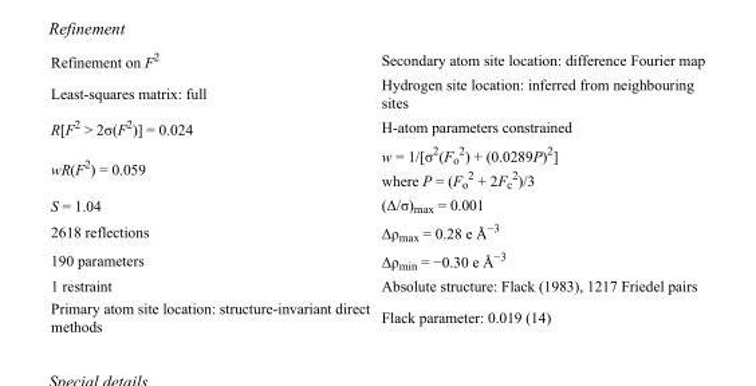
<table><tbody><tr><td>Refinement on F<sup>2</sup></td><td>Secondary atom site location: difference Fourier map</td></tr><tr><td>Least-squares matrix: full</td><td>Hydrogen site location: inferred from neighbouring sites</td></tr><tr><td>R[F<sup>2</sup> &gt; 2σ(F<sup>2</sup>)] = 0.024</td><td>H-atom parameters constrained</td></tr><tr><td>wR(F<sup>2</sup>) = 0.059</td><td>w = 1/[σ<sup>2</sup>(F<sub>o</sub> <sup>2</sup>) + (0.0289P)<sup>2</sup>] where P = (F<sub>o</sub> <sup>2</sup> + 2F<sub>c</sub> <sup>2</sup>)/3</td></tr><tr><td>S = 1.04</td><td>(Δ/σ)<sub>max</sub> = 0.001</td></tr><tr><td>2618 reflections</td><td>Δρ<sub>max</sub> = 0.28 e Å<sup>−3</sup></td></tr><tr><td>190 parameters</td><td>Δρ<sub>min</sub> = −0.30 e Å<sup>−3</sup></td></tr><tr><td>1 restraint</td><td>Absolute structure: Flack (1983), 1217 Friedel pairs</td></tr><tr><td>Primary atom site location: structure-invariant direct methods</td><td>Flack parameter: 0.019 (14)</td></tr></tbody></table>